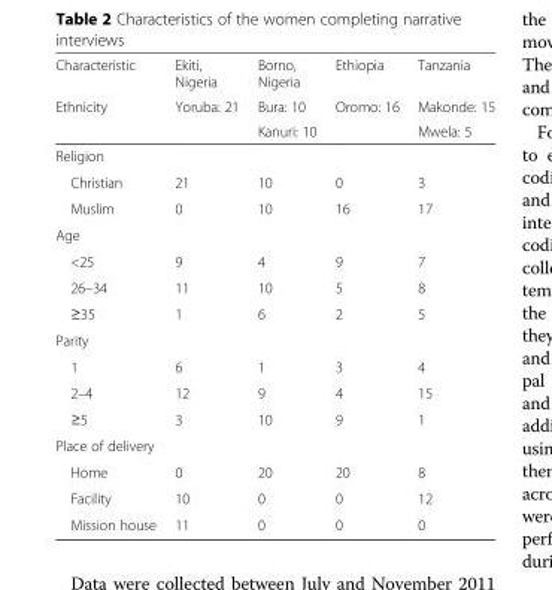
<table><thead><tr><td rowspan="3">Characteristic Ethnicity</td><td rowspan="3">Ekiti, Nigeria Yoruba: 21</td><td rowspan="3">Borno, Nigeria Bura: 10 Kanuri: 10</td><td rowspan="3">Ethiopia Oromo: 16</td><td rowspan="3">Tanzania Makonde: 15 Mwela: 5</td></tr><tr></tr><tr></tr></thead><tbody><tr><td colspan="5">Religion</td></tr><tr><td>Christian</td><td>21</td><td>10</td><td>0</td><td>3</td></tr><tr><td>Muslim</td><td>0</td><td>10</td><td>16</td><td>17</td></tr><tr><td colspan="5">Age</td></tr><tr><td>&lt;25</td><td>9</td><td>4</td><td>9</td><td>7</td></tr><tr><td>26–34</td><td>11</td><td>10</td><td>5</td><td>8</td></tr><tr><td>≥35</td><td>1</td><td>6</td><td>2</td><td>5</td></tr><tr><td colspan="5">Parity</td></tr><tr><td>1</td><td>6</td><td>1</td><td>3</td><td>4</td></tr><tr><td>2–4</td><td>12</td><td>9</td><td>4</td><td>15</td></tr><tr><td>≥5</td><td>3</td><td>10</td><td>9</td><td>1</td></tr><tr><td colspan="5">Place of delivery</td></tr><tr><td>Home</td><td>0</td><td>20</td><td>20</td><td>8</td></tr><tr><td>Facility</td><td>10</td><td>0</td><td>0</td><td>12</td></tr><tr><td>Mission house</td><td>11</td><td>0</td><td>0</td><td>0</td></tr></tbody></table>